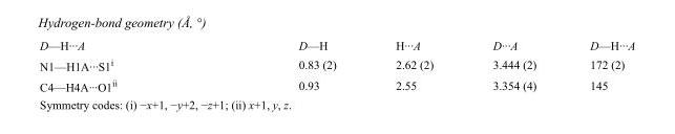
<table><tbody><tr><td>D—H···A</td><td>D—H</td><td>H···A</td><td>D···A</td><td>D—H···A</td></tr><tr><td>N1—H1A···S1<sup>i</sup></td><td>0.83 (2)</td><td>2.62 (2)</td><td>3.444 (2)</td><td>172 (2)</td></tr><tr><td>C4—H4A···O1<sup>ii</sup></td><td>0.93</td><td>2.55</td><td>3.354 (4)</td><td>145</td></tr></tbody></table>